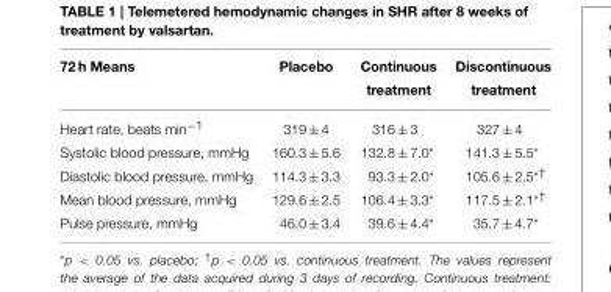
<table><thead><tr><td>72 h Means</td><td>Placebo</td><td>Continuous treatment</td><td>Discontinuous treatment</td></tr></thead><tbody><tr><td>Heart rate, beats min<sup>−1</sup></td><td>319 ± 4</td><td>316 ± 3</td><td>327 ± 4</td></tr><tr><td>Systolic blood pressure, mmHg</td><td>160.3 ± 5.6</td><td>132.8 ± 7.0*</td><td>141.3 ± 5.5*</td></tr><tr><td>Diastolic blood pressure, mmHg</td><td>114.3 ± 3.3</td><td>93.3 ± 2.0*</td><td>105.6 ± 2.5<sup>*†</sup></td></tr><tr><td>Mean blood pressure, mmHg</td><td>129.6 ± 2.5</td><td>106.4 ± 3.3*</td><td>117.5 ± 2.1<sup>*†</sup></td></tr><tr><td>Pulse pressure, mmHg</td><td>46.0 ± 3.4</td><td>39.6 ± 4.4*</td><td>35.7 ± 4.7*</td></tr></tbody></table>